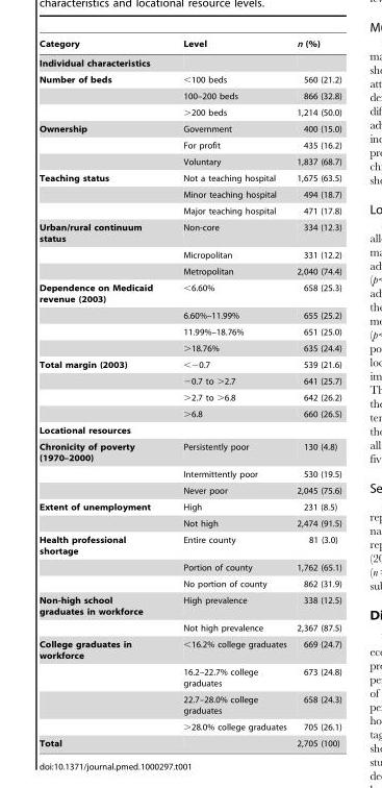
<table><thead><tr><td>Category</td><td>Level</td><td>n (%)</td></tr></thead><tbody><tr><td colspan="3">Individual characteristics</td></tr><tr><td rowspan="3">Number of beds</td><td>&lt;100 beds</td><td>560 (21.2)</td></tr><tr><td>100–200 beds</td><td>866 (32.8)</td></tr><tr><td>&gt;200 beds</td><td>1,214 (50.0)</td></tr><tr><td rowspan="3">Ownership</td><td>Government</td><td>400 (15.0)</td></tr><tr><td>For profit</td><td>435 (16.2)</td></tr><tr><td>Voluntary</td><td>1,837 (68.7)</td></tr><tr><td rowspan="3">Teaching status</td><td>Not a teaching hospital</td><td>1,675 (63.5)</td></tr><tr><td>Minor teaching hospital</td><td>494 (18.7)</td></tr><tr><td>Major teaching hospital</td><td>471 (17.8)</td></tr><tr><td rowspan="3">Urban/rural continuum status</td><td>Non-core</td><td>334 (12.3)</td></tr><tr><td>Micropolitan</td><td>331 (12.2)</td></tr><tr><td>Metropolitan</td><td>2,040 (74.4)</td></tr><tr><td rowspan="4">Dependence on Medicaid revenue (2003)</td><td>&lt;6.60%</td><td>658 (25.3)</td></tr><tr><td>6.60%–11.99%</td><td>655 (25.2)</td></tr><tr><td>11.99%–18.76%</td><td>651 (25.0)</td></tr><tr><td>&gt;18.76%</td><td>635 (24.4)</td></tr><tr><td rowspan="4">Total margin (2003)</td><td>&lt;−0.7</td><td>539 (21.6)</td></tr><tr><td>−0.7 to &gt;2.7</td><td>641 (25.7)</td></tr><tr><td>&gt;2.7 to &gt;6.8</td><td>642 (26.2)</td></tr><tr><td>&gt;6.8</td><td>660 (26.5)</td></tr><tr><td colspan="3">Locational resources</td></tr><tr><td rowspan="3">Chronicity of poverty (1970–2000)</td><td>Persistently poor</td><td>130 (4.8)</td></tr><tr><td>Intermittently poor</td><td>530 (19.5)</td></tr><tr><td>Never poor</td><td>2,045 (75.6)</td></tr><tr><td rowspan="2">Extent of unemployment</td><td>High</td><td>231 (8.5)</td></tr><tr><td>Not high</td><td>2,474 (91.5)</td></tr><tr><td rowspan="3">Health professional shortage</td><td>Entire county</td><td>81 (3.0)</td></tr><tr><td>Portion of county</td><td>1,762 (65.1)</td></tr><tr><td>No portion of county</td><td>862 (31.9)</td></tr><tr><td rowspan="2">Non-high school graduates in workforce</td><td>High prevalence</td><td>338 (12.5)</td></tr><tr><td>Not high prevalence</td><td>2,367 (87.5)</td></tr><tr><td rowspan="4">College graduates in workforce</td><td>&lt;16.2% college graduates</td><td>669 (24.7)</td></tr><tr><td>16.2–22.7% college graduates</td><td>673 (24.8)</td></tr><tr><td>22.7–28.0% college graduates</td><td>658 (24.3)</td></tr><tr><td>&gt;28.0% college graduates</td><td>705 (26.1)</td></tr><tr><td>Total</td><td></td><td>2,705 (100)</td></tr></tbody></table>